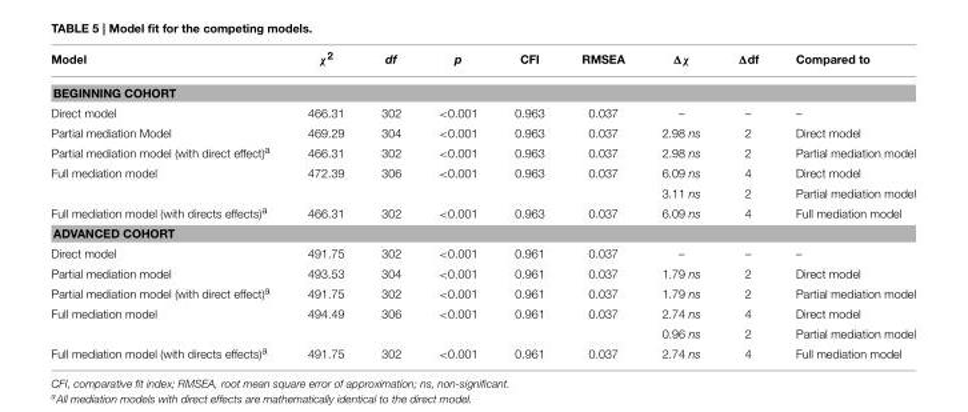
<table><thead><tr><td>Model</td><td>χ<sup>2</sup></td><td>df</td><td>p</td><td>CFI</td><td>RMSEA</td><td>Δ<sub>χ</sub></td><td>Δdf</td><td>Compared to</td></tr></thead><tbody><tr><td colspan="9">BEGINNING COHORT</td></tr><tr><td>Direct model</td><td>466.31</td><td>302</td><td>&lt;0.001</td><td>0.963</td><td>0.037</td><td>–</td><td>–</td><td>–</td></tr><tr><td>Partial mediation Model</td><td>469.29</td><td>304</td><td>&lt;0.001</td><td>0.963</td><td>0.037</td><td>2.98 ns</td><td>2</td><td>Direct model</td></tr><tr><td>Partial mediation model (with direct effect)<sup>a</sup></td><td>466.31</td><td>302</td><td>&lt;0.001</td><td>0.963</td><td>0.037</td><td>2.98 ns</td><td>2</td><td>Partial mediation model</td></tr><tr><td rowspan="2">Full mediation model</td><td>472.39</td><td>306</td><td>&lt;0.001</td><td>0.963</td><td>0.037</td><td>6.09 ns</td><td>4</td><td>Direct model</td></tr><tr><td></td><td></td><td></td><td></td><td></td><td>3.11 ns</td><td>2</td><td>Partial mediation model</td></tr><tr><td>Full mediation model (with directs effects)<sup>a</sup></td><td>466.31</td><td>302</td><td>&lt;0.001</td><td>0.963</td><td>0.037</td><td>6.09 ns</td><td>4</td><td>Full mediation model</td></tr><tr><td colspan="9">ADVANCED COHORT</td></tr><tr><td>Direct model</td><td>491.75</td><td>302</td><td>&lt;0.001</td><td>0.961</td><td>0.037</td><td>–</td><td>–</td><td>–</td></tr><tr><td>Partial mediation model</td><td>493.53</td><td>304</td><td>&lt;0.001</td><td>0.961</td><td>0.037</td><td>1.79 ns</td><td>2</td><td>Direct model</td></tr><tr><td>Partial mediation model (with direct effect)<sup>a</sup></td><td>491.75</td><td>302</td><td>&lt;0.001</td><td>0.961</td><td>0.037</td><td>1.79 ns</td><td>2</td><td>Partial mediation model</td></tr><tr><td rowspan="2">Full mediation model</td><td>494.49</td><td>306</td><td>&lt;0.001</td><td>0.961</td><td>0.037</td><td>2.74 ns</td><td>4</td><td>Direct model</td></tr><tr><td></td><td></td><td></td><td></td><td></td><td>0.96 ns</td><td>2</td><td>Partial mediation model</td></tr><tr><td>Full mediation model (with directs effects)<sup>a</sup></td><td>491.75</td><td>302</td><td>&lt;0.001</td><td>0.961</td><td>0.037</td><td>2.74 ns</td><td>4</td><td>Full mediation model</td></tr></tbody></table>